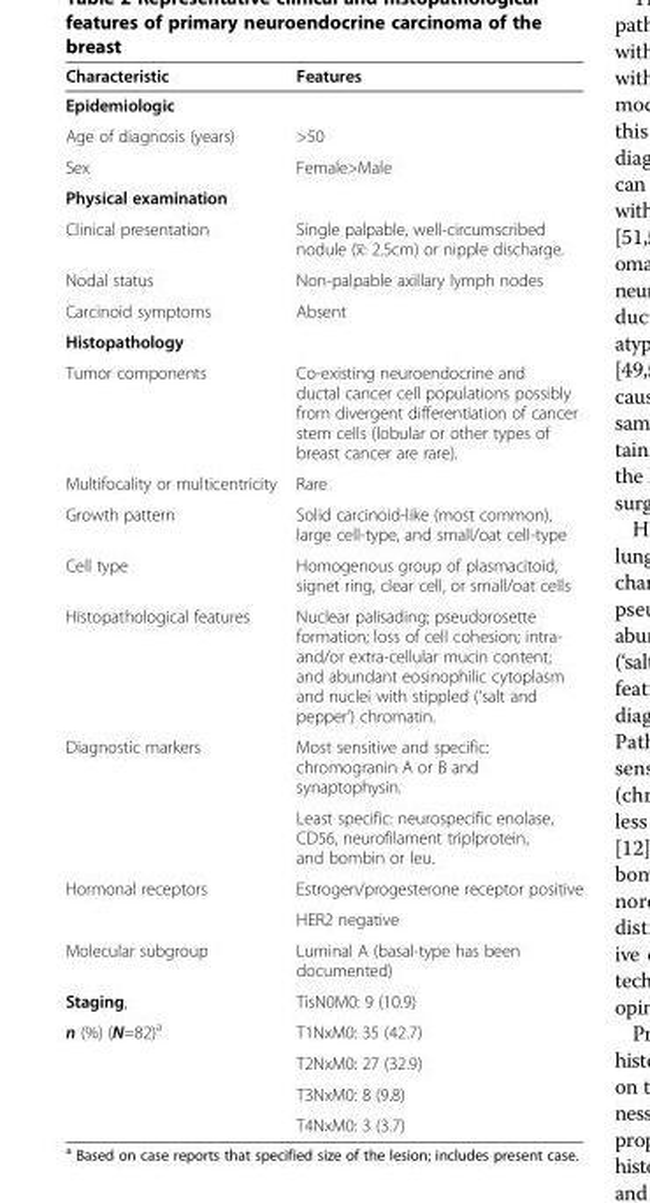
<table><thead><tr><td>Characteristic</td><td>Features</td></tr></thead><tbody><tr><td colspan="2">Epidemiologic</td></tr><tr><td>Age of diagnosis (years)</td><td>&gt;50</td></tr><tr><td>Sex</td><td>Female&gt;Male</td></tr><tr><td colspan="2">Physical examination</td></tr><tr><td>Clinical presentation</td><td>Single palpable, well-circumscribed nodule (x̅: 2.5cm) or nipple discharge.</td></tr><tr><td>Nodal status</td><td>Non-palpable axillary lymph nodes</td></tr><tr><td>Carcinoid symptoms</td><td>Absent</td></tr><tr><td colspan="2">Histopathology</td></tr><tr><td>Tumor components</td><td>Co-existing neuroendocrine and ductal cancer cell populations possibly from divergent differentiation of cancer stem cells (lobular or other types of breast cancer are rare).</td></tr><tr><td>Multifocality or multicentricity</td><td>Rare</td></tr><tr><td>Growth pattern</td><td>Solid carcinoid-like (most common), large cell-type, and small/oat cell-type</td></tr><tr><td>Cell type</td><td>Homogenous group of plasmacitoid, signet ring, clear cell, or small/oat cells</td></tr><tr><td>Histopathological features</td><td>Nuclear palisading; pseudorosette formation; loss of cell cohesion; intra- and/or extra-cellular mucin content; and abundant eosinophilic cytoplasm and nuclei with stippled (‘salt and pepper’) chromatin.</td></tr><tr><td rowspan="2">Diagnostic markers</td><td>Most sensitive and specific: chromogranin A or B and synaptophysin.</td></tr><tr><td>Least specific: neurospecific enolase, CD56, neurofilament triplprotein, and bombin or leu.</td></tr><tr><td rowspan="2">Hormonal receptors</td><td>Estrogen/progesterone receptor positive</td></tr><tr><td>HER2 negative</td></tr><tr><td>Molecular subgroup</td><td>Luminal A (basal-type has been documented)</td></tr><tr><td>Staging,</td><td>TisN0M0: 9 (10.9)</td></tr><tr><td rowspan="4">n (%) (N=82)<sup>a</sup></td><td>T1NxM0: 35 (42.7)</td></tr><tr><td>T2NxM0: 27 (32.9)</td></tr><tr><td>T3NxM0: 8 (9.8)</td></tr><tr><td>T4NxM0: 3 (3.7)</td></tr></tbody></table>